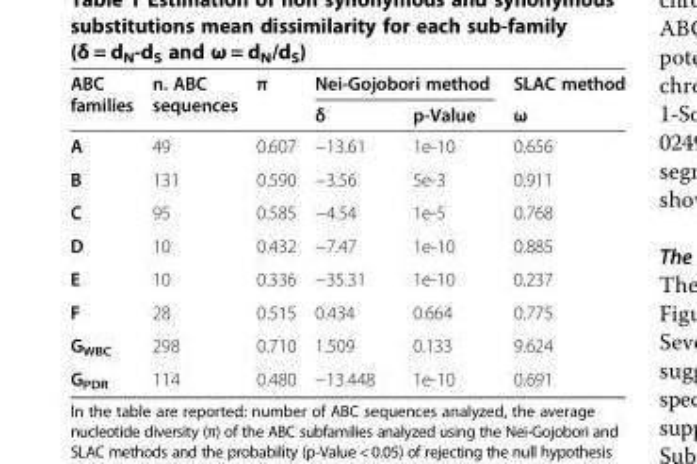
<table><thead><tr><td rowspan="2">ABC families</td><td rowspan="2">n. ABC sequences</td><td rowspan="2">π</td><td colspan="2">Nei-Gojobori method</td><td rowspan="2">SLAC method ω</td></tr><tr><td>δ</td><td>p-Value</td></tr></thead><tbody><tr><td>A</td><td>49</td><td>0.607</td><td>−13.61</td><td>1e-10</td><td>0.656</td></tr><tr><td>B</td><td>131</td><td>0.590</td><td>−3.56</td><td>5e-3</td><td>0.911</td></tr><tr><td>C</td><td>95</td><td>0.585</td><td>−4.54</td><td>1e-5</td><td>0.768</td></tr><tr><td>D</td><td>10</td><td>0.432</td><td>−7.47</td><td>1e-10</td><td>0.885</td></tr><tr><td>E</td><td>10</td><td>0.336</td><td>−35.31</td><td>1e-10</td><td>0.237</td></tr><tr><td>F</td><td>28</td><td>0.515</td><td>0.434</td><td>0.664</td><td>0.775</td></tr><tr><td>G<sub>WBC</sub></td><td>298</td><td>0.710</td><td>1.509</td><td>0.133</td><td>9.624</td></tr><tr><td>G<sub>PDR</sub></td><td>114</td><td>0.480</td><td>−13.448</td><td>1e-10</td><td>0.691</td></tr></tbody></table>